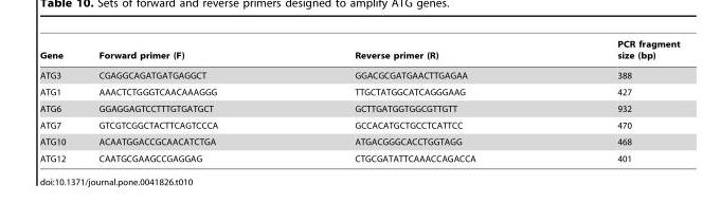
<table><thead><tr><td>Gene</td><td>Forward primer (F)</td><td>Reverse primer (R)</td><td>PCR fragment size (bp)</td></tr></thead><tbody><tr><td>ATG3</td><td>CGAGGCAGATGATGAGGCT</td><td>GGACGCGATGAACTTGAGAA</td><td>388</td></tr><tr><td>ATG1</td><td>AAACTCTGGGTCAACAAAGGG</td><td>TTGCTATGGCATCAGGGAAG</td><td>427</td></tr><tr><td>ATG6</td><td>GGAGGAGTCCTTTGTGATGCT</td><td>GCTTGATGGTGGCGTTGTT</td><td>932</td></tr><tr><td>ATG7</td><td>GTCGTCGGCTACTTCAGTCCCA</td><td>GCCACATGCTGCCTCATTCC</td><td>470</td></tr><tr><td>ATG10</td><td>ACAATGGACCGCAACATCTGA</td><td>ATGACGGGCACCTGGTAGG</td><td>468</td></tr><tr><td>ATG12</td><td>CAATGCGAAGCCGAGGAG</td><td>CTGCGATATTCAAACCAGACCA</td><td>401</td></tr></tbody></table>